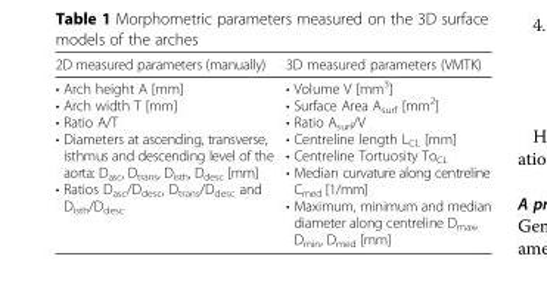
<table><thead><tr><td>2D measured parameters (manually)</td><td>3D measured parameters (VMTK)</td></tr></thead><tbody><tr><td>• Arch height A [mm] • Arch width T [mm] • Ratio A/T • Diameters at ascending, transverse, isthmus and descending level of the aorta: D<sub>asc</sub>, D<sub>trans</sub>, D<sub>isth</sub>, D<sub>desc</sub> [mm] • Ratios D<sub>asc</sub>/D<sub>desc</sub>, D<sub>trans</sub>/D<sub>desc</sub> and D<sub>isth</sub>/D<sub>desc</sub></td><td>• Volume V [mm<sup>3</sup>] • Surface Area A<sub>surf</sub> [mm<sup>2</sup>] • Ratio A<sub>surf</sub>/V • Centreline length L<sub>CL</sub> [mm] • Centreline Tortuosity To<sub>CL</sub> • Median curvature along centreline C<sub>med</sub> [1/mm] • Maximum, minimum and median diameter along centreline D<sub>max</sub>, D<sub>min</sub>, D<sub>med</sub> [mm]</td></tr></tbody></table>